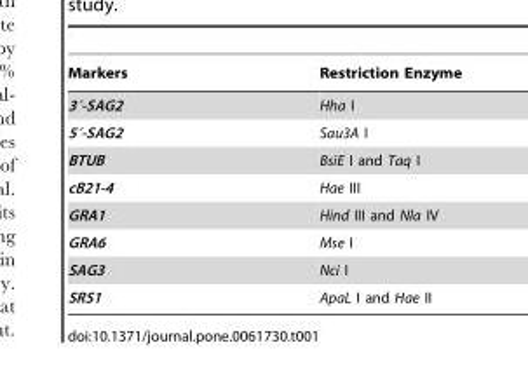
<table><thead><tr><td>Markers</td><td>Restriction Enzyme</td></tr></thead><tbody><tr><td>3′-SAG2</td><td>Hha I</td></tr><tr><td>5′-SAG2</td><td>Sau3A I</td></tr><tr><td>BTUB</td><td>BsiE I and Taq I</td></tr><tr><td>cB21-4</td><td>Hae III</td></tr><tr><td>GRA1</td><td>Hind III and Nla IV</td></tr><tr><td>GRA6</td><td>Mse I</td></tr><tr><td>SAG3</td><td>Nci I</td></tr><tr><td>SRS1</td><td>ApaL I and Hae II</td></tr></tbody></table>